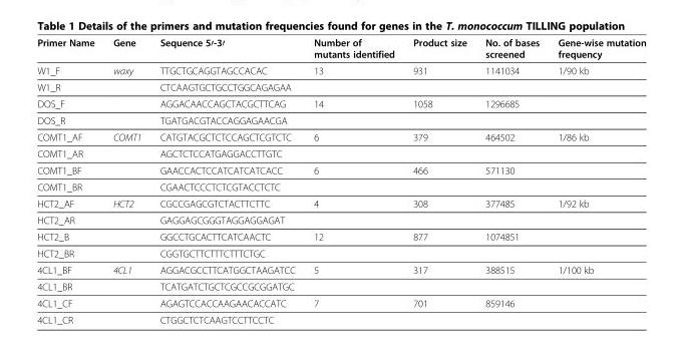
<table><thead><tr><td>Primer Name</td><td>Gene</td><td>Sequence 5′-3′</td><td>Number of mutants identified</td><td>Product size</td><td>No. of bases screened</td><td>Gene-wise mutation frequency</td></tr></thead><tbody><tr><td>W1_F</td><td>waxy</td><td>TTGCTGCAGGTAGCCACAC</td><td>13</td><td>931</td><td>1141034</td><td>1/90 kb</td></tr><tr><td>W1_R</td><td></td><td>CTCAAGTGCTGCCTGGCAGAGAA</td><td></td><td></td><td></td><td></td></tr><tr><td>DOS_F</td><td></td><td>AGGACAACCAGCTACGCTTCAG</td><td>14</td><td>1058</td><td>1296685</td><td></td></tr><tr><td>DOS_R</td><td></td><td>TGATGACGTACCAGGAGAACGA</td><td></td><td></td><td></td><td></td></tr><tr><td>COMT1_AF</td><td>COMT1</td><td>CATGTACGCTCTCCAGCTCGTCTC</td><td>6</td><td>379</td><td>464502</td><td>1/86 kb</td></tr><tr><td>COMT1_AR</td><td></td><td>AGCTCTCCATGAGGACCTTGTC</td><td></td><td></td><td></td><td></td></tr><tr><td>COMT1_BF</td><td></td><td>GAACCACTCCATCATCATCACC</td><td>6</td><td>466</td><td>571130</td><td></td></tr><tr><td>COMT1_BR</td><td></td><td>CGAACTCCCTCTCGTACCTCTC</td><td></td><td></td><td></td><td></td></tr><tr><td>HCT2_AF</td><td>HCT2</td><td>CGCCGAGCGTCTACTTCTTC</td><td>4</td><td>308</td><td>377485</td><td>1/92 kb</td></tr><tr><td>HCT2_AR</td><td></td><td>GAGGAGCGGGTAGGAGGAGAT</td><td></td><td></td><td></td><td></td></tr><tr><td>HCT2_B</td><td></td><td>GGCCTGCACTTCATCAACTC</td><td>12</td><td>877</td><td>1074851</td><td></td></tr><tr><td>HCT2_BR</td><td></td><td>CGGTGCTTCTTTCTTTCTGC</td><td></td><td></td><td></td><td></td></tr><tr><td>4CL1_BF</td><td>4CL1</td><td>AGGACGCCTTCATGGCTAAGATCC</td><td>5</td><td>317</td><td>388515</td><td>1/100 kb</td></tr><tr><td>4CL1_BR</td><td></td><td>TCATGATCTGCTCGCCGCGGATGC</td><td></td><td></td><td></td><td></td></tr><tr><td>4CL1_CF</td><td></td><td>AGAGTCCACCAAGAACACCATC</td><td>7</td><td>701</td><td>859146</td><td></td></tr><tr><td>4CL1_CR</td><td></td><td>CTGGCTCTCAAGTCCTTCCTC</td><td></td><td></td><td></td><td></td></tr></tbody></table>